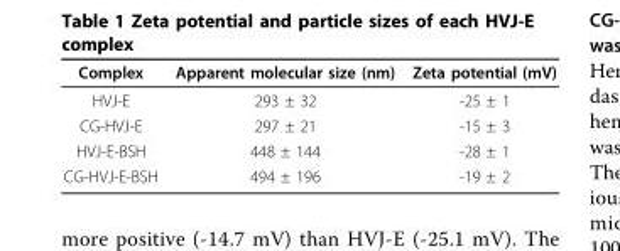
<table><thead><tr><td>Complex</td><td>Apparent molecular size (nm)</td><td>Zeta potential (mV)</td></tr></thead><tbody><tr><td>HVJ-E</td><td>293 ± 32</td><td>-25 ± 1</td></tr><tr><td>CG-HVJ-E</td><td>297 ± 21</td><td>-15 ± 3</td></tr><tr><td>HVJ-E-BSH</td><td>448 ± 144</td><td>-28 ± 1</td></tr><tr><td>CG-HVJ-E-BSH</td><td>494 ± 196</td><td>-19 ± 2</td></tr></tbody></table>